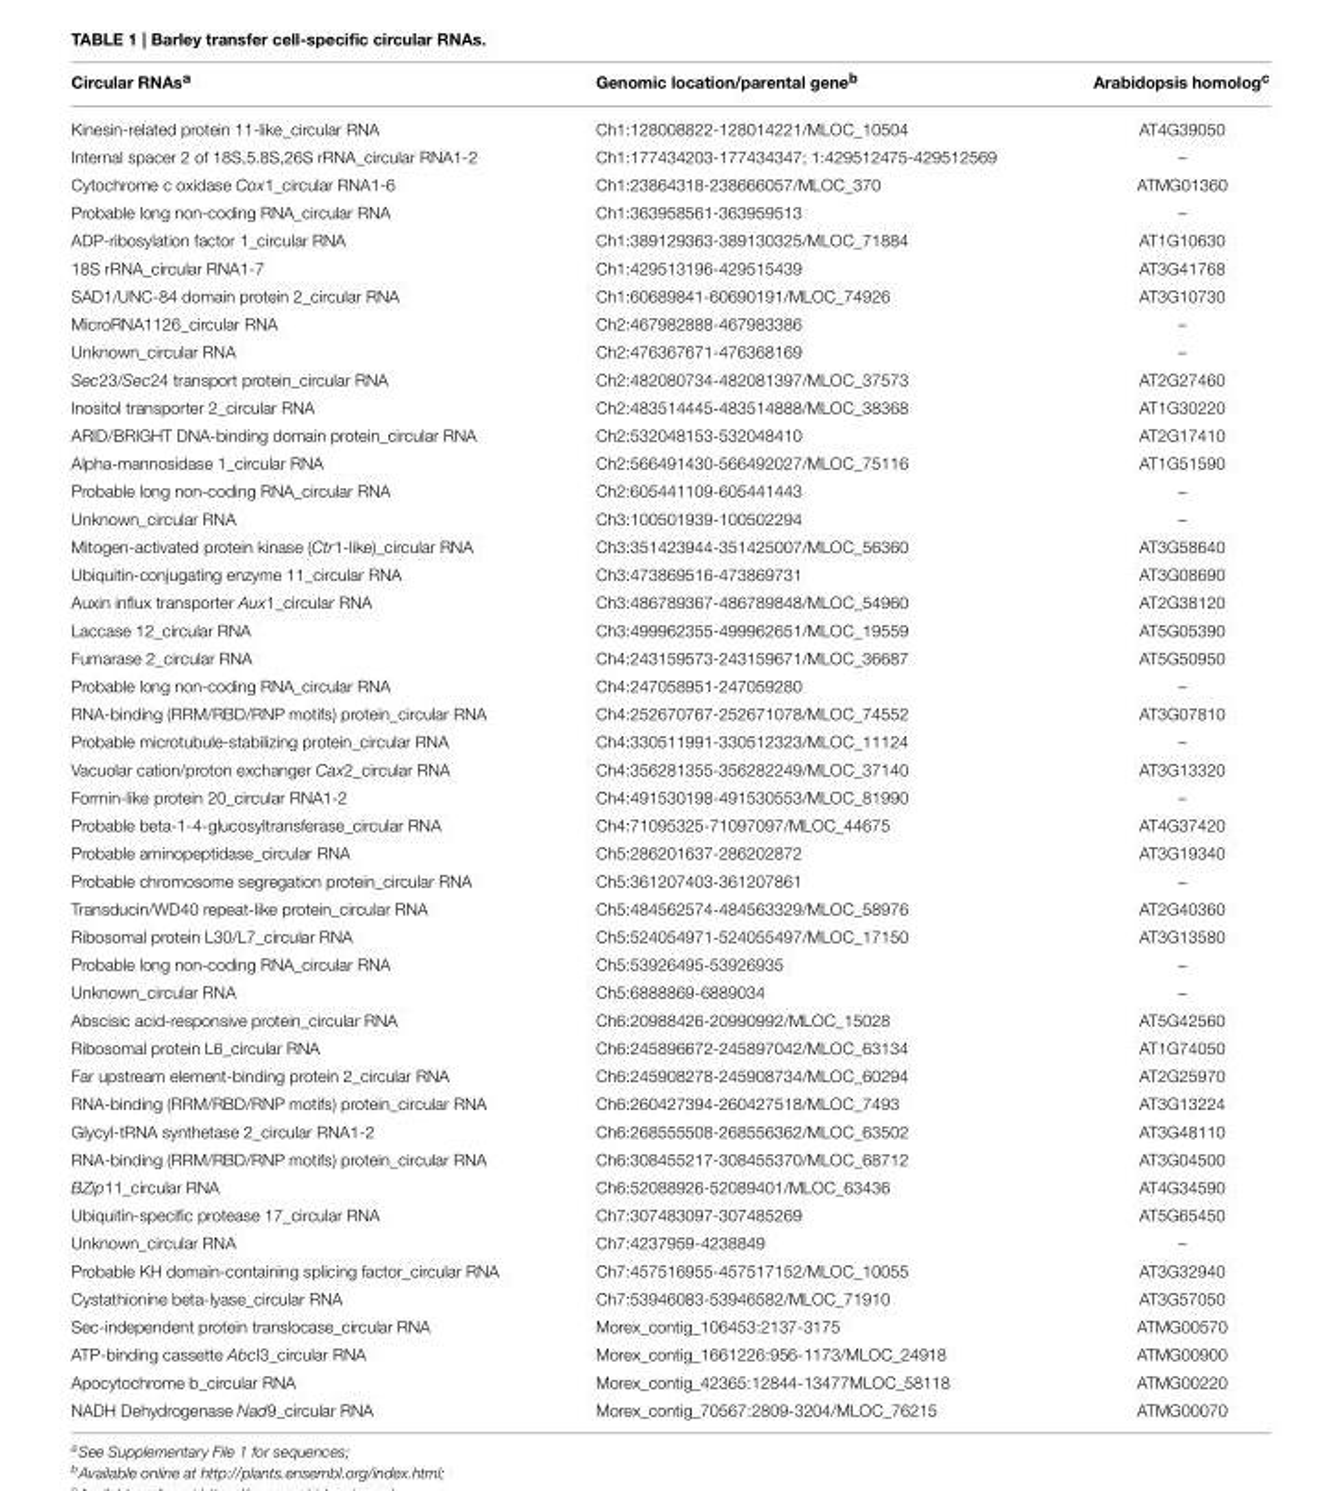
<table><thead><tr><td>Circular RNAs<sup>a</sup></td><td>Genomic location/parental gene<sup>b</sup></td><td>Arabidopsis homolog<sup>c</sup></td></tr></thead><tbody><tr><td>Kinesin-related protein 11-like_circular RNA</td><td>Ch1:128008822-128014221/MLOC_10504</td><td>AT4G39050</td></tr><tr><td>Internal spacer 2 of 18S,5.8S,26S rRNA_circular RNA1-2</td><td>Ch1:177434203-177434347; 1:429512475-429512569</td><td>–</td></tr><tr><td>Cytochrome c oxidase Cox1_circular RNA1-6</td><td>Ch1:23864318-238666057/MLOC_370</td><td>ATMG01360</td></tr><tr><td>Probable long non-coding RNA_circular RNA</td><td>Ch1:363958561-363959513</td><td>–</td></tr><tr><td>ADP-ribosylation factor 1_circular RNA</td><td>Ch1:389129363-389130325/MLOC_71884</td><td>AT1G10630</td></tr><tr><td>18S rRNA_circular RNA1-7</td><td>Ch1:429513196-429515439</td><td>AT3G41768</td></tr><tr><td>SAD1/UNC-84 domain protein 2_circular RNA</td><td>Ch1:60689841-60690191/MLOC_74926</td><td>AT3G10730</td></tr><tr><td>MicroRNA1126_circular RNA</td><td>Ch2:467982888-467983386</td><td>–</td></tr><tr><td>Unknown_circular RNA</td><td>Ch2:476367671-476368169</td><td>–</td></tr><tr><td>Sec23/Sec24 transport protein_circular RNA</td><td>Ch2:482080734-482081397/MLOC_37573</td><td>AT2G27460</td></tr><tr><td>Inositol transporter 2_circular RNA</td><td>Ch2:483514445-483514888/MLOC_38368</td><td>AT1G30220</td></tr><tr><td>ARID/BRIGHT DNA-binding domain protein_circular RNA</td><td>Ch2:532048153-532048410</td><td>AT2G17410</td></tr><tr><td>Alpha-mannosidase 1_circular RNA</td><td>Ch2:566491430-566492027/MLOC_75116</td><td>AT1G51590</td></tr><tr><td>Probable long non-coding RNA_circular RNA</td><td>Ch2:605441109-605441443</td><td>–</td></tr><tr><td>Unknown_circular RNA</td><td>Ch3:100501939-100502294</td><td>–</td></tr><tr><td>Mitogen-activated protein kinase (Ctr1-like)_circular RNA</td><td>Ch3:351423944-351425007/MLOC_56360</td><td>AT3G58640</td></tr><tr><td>Ubiquitin-conjugating enzyme 11_circular RNA</td><td>Ch3:473869516-473869731</td><td>AT3G08690</td></tr><tr><td>Auxin influx transporter Aux1_circular RNA</td><td>Ch3:486789367-486789848/MLOC_54960</td><td>AT2G38120</td></tr><tr><td>Laccase 12_circular RNA</td><td>Ch3:499962355-499962651/MLOC_19559</td><td>AT5G05390</td></tr><tr><td>Fumarase 2_circular RNA</td><td>Ch4:243159573-243159671/MLOC_36687</td><td>AT5G50950</td></tr><tr><td>Probable long non-coding RNA_circular RNA</td><td>Ch4:247058951-247059280</td><td>–</td></tr><tr><td>RNA-binding (RRM/RBD/RNP motifs) protein_circular RNA</td><td>Ch4:252670767-252671078/MLOC_74552</td><td>AT3G07810</td></tr><tr><td>Probable microtubule-stabilizing protein_circular RNA</td><td>Ch4:330511991-330512323/MLOC_11124</td><td>–</td></tr><tr><td>Vacuolar cation/proton exchanger Cax2_circular RNA</td><td>Ch4:356281355-356282249/MLOC_37140</td><td>AT3G13320</td></tr><tr><td>Formin-like protein 20_circular RNA1-2</td><td>Ch4:491530198-491530553/MLOC_81990</td><td>–</td></tr><tr><td>Probable beta-1-4-glucosyltransferase_circular RNA</td><td>Ch4:71095325-71097097/MLOC_44675</td><td>AT4G37420</td></tr><tr><td>Probable aminopeptidase_circular RNA</td><td>Ch5:286201637-286202872</td><td>AT3G19340</td></tr><tr><td>Probable chromosome segregation protein_circular RNA</td><td>Ch5:361207403-361207861</td><td>–</td></tr><tr><td>Transducin/WD40 repeat-like protein_circular RNA</td><td>Ch5:484562574-484563329/MLOC_58976</td><td>AT2G40360</td></tr><tr><td>Ribosomal protein L30/L7_circular RNA</td><td>Ch5:524054971-524055497/MLOC_17150</td><td>AT3G13580</td></tr><tr><td>Probable long non-coding RNA_circular RNA</td><td>Ch5:53926495-53926935</td><td>–</td></tr><tr><td>Unknown_circular RNA</td><td>Ch5:6888869-6889034</td><td>–</td></tr><tr><td>Abscisic acid-responsive protein_circular RNA</td><td>Ch6:20988426-20990992/MLOC_15028</td><td>AT5G42560</td></tr><tr><td>Ribosomal protein L6_circular RNA</td><td>Ch6:245896672-245897042/MLOC_63134</td><td>AT1G74050</td></tr><tr><td>Far upstream element-binding protein 2_circular RNA</td><td>Ch6:245908278-245908734/MLOC_60294</td><td>AT2G25970</td></tr><tr><td>RNA-binding (RRM/RBD/RNP motifs) protein_circular RNA</td><td>Ch6:260427394-260427518/MLOC_7493</td><td>AT3G13224</td></tr><tr><td>Glycyl-tRNA synthetase 2_circular RNA1-2</td><td>Ch6:268555508-268556362/MLOC_63502</td><td>AT3G48110</td></tr><tr><td>RNA-binding (RRM/RBD/RNP motifs) protein_circular RNA</td><td>Ch6:308455217-308455370/MLOC_68712</td><td>AT3G04500</td></tr><tr><td>BZip11_circular RNA</td><td>Ch6:52088926-52089401/MLOC_63436</td><td>AT4G34590</td></tr><tr><td>Ubiquitin-specific protease 17_circular RNA</td><td>Ch7:307483097-307485269</td><td>AT5G65450</td></tr><tr><td>Unknown_circular RNA</td><td>Ch7:4237959-4238849</td><td>–</td></tr><tr><td>Probable KH domain-containing splicing factor_circular RNA</td><td>Ch7:457516955-457517152/MLOC_10055</td><td>AT3G32940</td></tr><tr><td>Cystathionine beta-lyase_circular RNA</td><td>Ch7:53946083-53946582/MLOC_71910</td><td>AT3G57050</td></tr><tr><td>Sec-independent protein translocase_circular RNA</td><td>Morex_contig_106453:2137-3175</td><td>ATMG00570</td></tr><tr><td>ATP-binding cassette AbcI3_circular RNA</td><td>Morex_contig_1661226:956-1173/MLOC_24918</td><td>ATMG00900</td></tr><tr><td>Apocytochrome b_circular RNA</td><td>Morex_contig_42365:12844-13477MLOC_58118</td><td>ATMG00220</td></tr><tr><td>NADH Dehydrogenase Nad9_circular RNA</td><td>Morex_contig_70567:2809-3204/MLOC_76215</td><td>ATMG00070</td></tr></tbody></table>